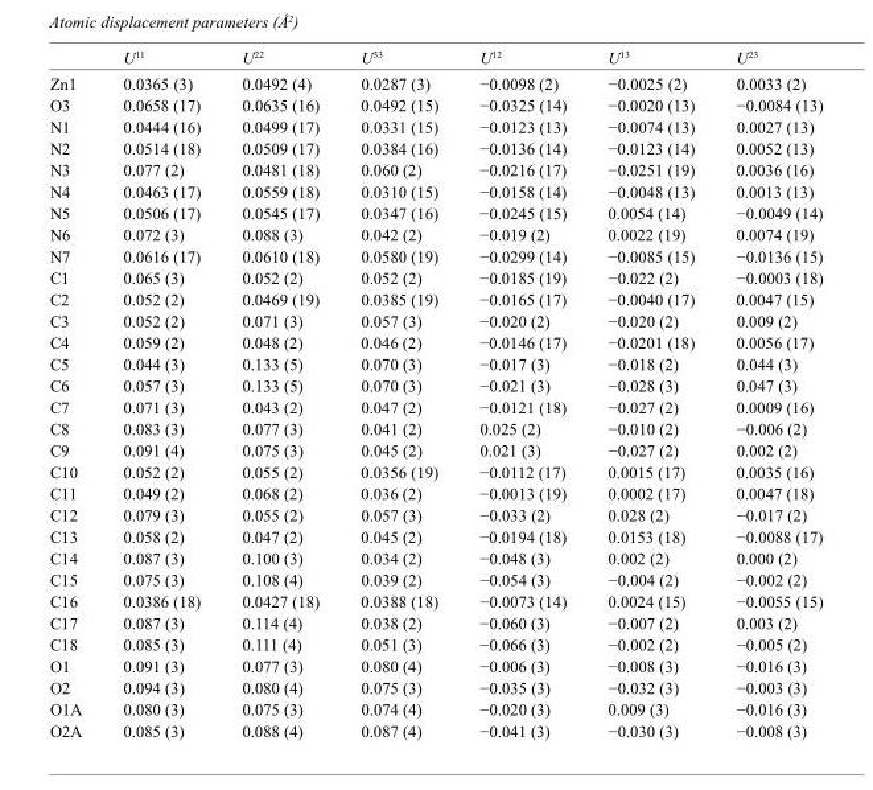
<table><thead><tr><td></td><td>U<sup>11</sup></td><td>U<sup>22</sup></td><td>U<sup>33</sup></td><td>U<sup>12</sup></td><td>U<sup>13</sup></td><td>U<sup>23</sup></td></tr></thead><tbody><tr><td>Zn1</td><td>0.0365 (3)</td><td>0.0492 (4)</td><td>0.0287 (3)</td><td>−0.0098 (2)</td><td>−0.0025 (2)</td><td>0.0033 (2)</td></tr><tr><td>O3</td><td>0.0658 (17)</td><td>0.0635 (16)</td><td>0.0492 (15)</td><td>−0.0325 (14)</td><td>−0.0020 (13)</td><td>−0.0084 (13)</td></tr><tr><td>N1</td><td>0.0444 (16)</td><td>0.0499 (17)</td><td>0.0331 (15)</td><td>−0.0123 (13)</td><td>−0.0074 (13)</td><td>0.0027 (13)</td></tr><tr><td>N2</td><td>0.0514 (18)</td><td>0.0509 (17)</td><td>0.0384 (16)</td><td>−0.0136 (14)</td><td>−0.0123 (14)</td><td>0.0052 (13)</td></tr><tr><td>N3</td><td>0.077 (2)</td><td>0.0481 (18)</td><td>0.060 (2)</td><td>−0.0216 (17)</td><td>−0.0251 (19)</td><td>0.0036 (16)</td></tr><tr><td>N4</td><td>0.0463 (17)</td><td>0.0559 (18)</td><td>0.0310 (15)</td><td>−0.0158 (14)</td><td>−0.0048 (13)</td><td>0.0013 (13)</td></tr><tr><td>N5</td><td>0.0506 (17)</td><td>0.0545 (17)</td><td>0.0347 (16)</td><td>−0.0245 (15)</td><td>0.0054 (14)</td><td>−0.0049 (14)</td></tr><tr><td>N6</td><td>0.072 (3)</td><td>0.088 (3)</td><td>0.042 (2)</td><td>−0.019 (2)</td><td>0.0022 (19)</td><td>0.0074 (19)</td></tr><tr><td>N7</td><td>0.0616 (17)</td><td>0.0610 (18)</td><td>0.0580 (19)</td><td>−0.0299 (14)</td><td>−0.0085 (15)</td><td>−0.0136 (15)</td></tr><tr><td>C1</td><td>0.065 (3)</td><td>0.052 (2)</td><td>0.052 (2)</td><td>−0.0185 (19)</td><td>−0.022 (2)</td><td>−0.0003 (18)</td></tr><tr><td>C2</td><td>0.052 (2)</td><td>0.0469 (19)</td><td>0.0385 (19)</td><td>−0.0165 (17)</td><td>−0.0040 (17)</td><td>0.0047 (15)</td></tr><tr><td>C3</td><td>0.052 (2)</td><td>0.071 (3)</td><td>0.057 (3)</td><td>−0.020 (2)</td><td>−0.020 (2)</td><td>0.009 (2)</td></tr><tr><td>C4</td><td>0.059 (2)</td><td>0.048 (2)</td><td>0.046 (2)</td><td>−0.0146 (17)</td><td>−0.0201 (18)</td><td>0.0056 (17)</td></tr><tr><td>C5</td><td>0.044 (3)</td><td>0.133 (5)</td><td>0.070 (3)</td><td>−0.017 (3)</td><td>−0.018 (2)</td><td>0.044 (3)</td></tr><tr><td>C6</td><td>0.057 (3)</td><td>0.133 (5)</td><td>0.070 (3)</td><td>−0.021 (3)</td><td>−0.028 (3)</td><td>0.047 (3)</td></tr><tr><td>C7</td><td>0.071 (3)</td><td>0.043 (2)</td><td>0.047 (2)</td><td>−0.0121 (18)</td><td>−0.027 (2)</td><td>0.0009 (16)</td></tr><tr><td>C8</td><td>0.083 (3)</td><td>0.077 (3)</td><td>0.041 (2)</td><td>0.025 (2)</td><td>−0.010 (2)</td><td>−0.006 (2)</td></tr><tr><td>C9</td><td>0.091 (4)</td><td>0.075 (3)</td><td>0.045 (2)</td><td>0.021 (3)</td><td>−0.027 (2)</td><td>0.002 (2)</td></tr><tr><td>C10</td><td>0.052 (2)</td><td>0.055 (2)</td><td>0.0356 (19)</td><td>−0.0112 (17)</td><td>0.0015 (17)</td><td>0.0035 (16)</td></tr><tr><td>C11</td><td>0.049 (2)</td><td>0.068 (2)</td><td>0.036 (2)</td><td>−0.0013 (19)</td><td>0.0002 (17)</td><td>0.0047 (18)</td></tr><tr><td>C12</td><td>0.079 (3)</td><td>0.055 (2)</td><td>0.057 (3)</td><td>−0.033 (2)</td><td>0.028 (2)</td><td>−0.017 (2)</td></tr><tr><td>C13</td><td>0.058 (2)</td><td>0.047 (2)</td><td>0.045 (2)</td><td>−0.0194 (18)</td><td>0.0153 (18)</td><td>−0.0088 (17)</td></tr><tr><td>C14</td><td>0.087 (3)</td><td>0.100 (3)</td><td>0.034 (2)</td><td>−0.048 (3)</td><td>0.002 (2)</td><td>0.000 (2)</td></tr><tr><td>C15</td><td>0.075 (3)</td><td>0.108 (4)</td><td>0.039 (2)</td><td>−0.054 (3)</td><td>−0.004 (2)</td><td>−0.002 (2)</td></tr><tr><td>C16</td><td>0.0386 (18)</td><td>0.0427 (18)</td><td>0.0388 (18)</td><td>−0.0073 (14)</td><td>0.0024 (15)</td><td>−0.0055 (15)</td></tr><tr><td>C17</td><td>0.087 (3)</td><td>0.114 (4)</td><td>0.038 (2)</td><td>−0.060 (3)</td><td>−0.007 (2)</td><td>0.003 (2)</td></tr><tr><td>C18</td><td>0.085 (3)</td><td>0.111 (4)</td><td>0.051 (3)</td><td>−0.066 (3)</td><td>−0.002 (2)</td><td>−0.005 (2)</td></tr><tr><td>O1</td><td>0.091 (3)</td><td>0.077 (3)</td><td>0.080 (4)</td><td>−0.006 (3)</td><td>−0.008 (3)</td><td>−0.016 (3)</td></tr><tr><td>O2</td><td>0.094 (3)</td><td>0.080 (4)</td><td>0.075 (3)</td><td>−0.035 (3)</td><td>−0.032 (3)</td><td>−0.003 (3)</td></tr><tr><td>O1A</td><td>0.080 (3)</td><td>0.075 (3)</td><td>0.074 (4)</td><td>−0.020 (3)</td><td>0.009 (3)</td><td>−0.016 (3)</td></tr><tr><td>O2A</td><td>0.085 (3)</td><td>0.088 (4)</td><td>0.087 (4)</td><td>−0.041 (3)</td><td>−0.030 (3)</td><td>−0.008 (3)</td></tr></tbody></table>